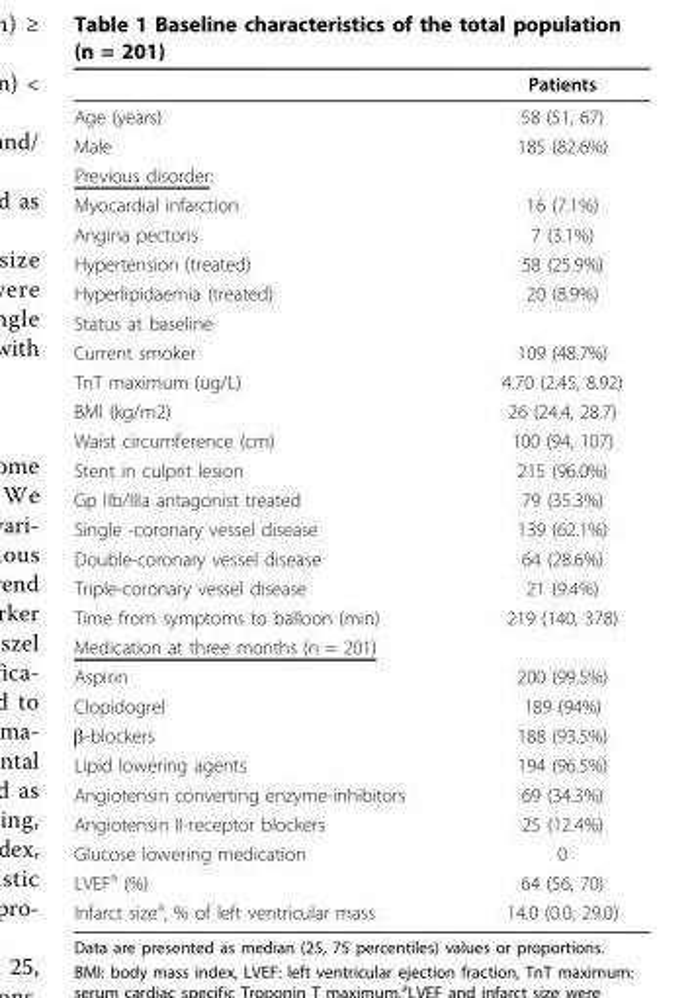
<table><thead><tr><td></td><td>Patients</td></tr></thead><tbody><tr><td>Age (years)</td><td>58 (51, 67)</td></tr><tr><td>Male</td><td>185 (82.6%)</td></tr><tr><td colspan="2">Previous disorder:</td></tr><tr><td>Myocardial infarction</td><td>16 (7.1%)</td></tr><tr><td>Angina pectoris</td><td>7 (3.1%)</td></tr><tr><td>Hypertension (treated)</td><td>58 (25.9%)</td></tr><tr><td>Hyperlipidaemia (treated)</td><td>20 (8.9%)</td></tr><tr><td colspan="2">Status at baseline</td></tr><tr><td>Current smoker</td><td>109 (48.7%)</td></tr><tr><td>TnT maximum (ug/L)</td><td>4.70 (2.45, 8.92)</td></tr><tr><td>BMI (kg/m2)</td><td>26 (24.4, 28.7)</td></tr><tr><td>Waist circumference (cm)</td><td>100 (94, 107)</td></tr><tr><td>Stent in culprit lesion</td><td>215 (96.0%)</td></tr><tr><td>Gp IIb/IIIa antagonist treated</td><td>79 (35.3%)</td></tr><tr><td>Single -coronary vessel disease</td><td>139 (62.1%)</td></tr><tr><td>Double-coronary vessel disease</td><td>64 (28.6%)</td></tr><tr><td>Triple-coronary vessel disease</td><td>21 (9.4%)</td></tr><tr><td>Time from symptoms to balloon (min)</td><td>219 (140, 378)</td></tr><tr><td colspan="2">Medication at three months (n = 201)</td></tr><tr><td>Aspirin</td><td>200 (99.5%)</td></tr><tr><td>Clopidogrel</td><td>189 (94%)</td></tr><tr><td>β-blockers</td><td>188 (93.5%)</td></tr><tr><td>Lipid lowering agents</td><td>194 (96.5%)</td></tr><tr><td>Angiotensin converting enzyme-inhibitors</td><td>69 (34.3%)</td></tr><tr><td>Angiotensin II-receptor blockers</td><td>25 (12.4%)</td></tr><tr><td>Glucose lowering medication</td><td>0</td></tr><tr><td>LVEF<sup>a</sup> (%)</td><td>64 (56, 70)</td></tr><tr><td>Infarct size<sup>a</sup>, % of left ventricular mass</td><td>14.0 (0.0, 29.0)</td></tr></tbody></table>